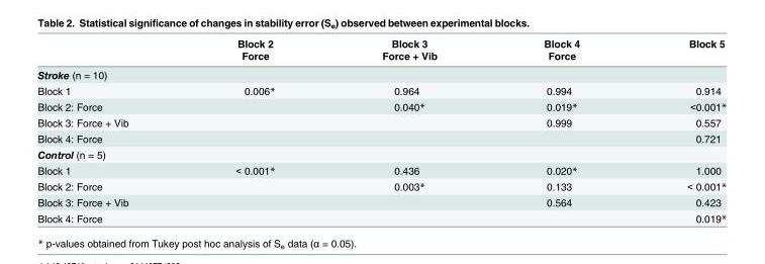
<table><thead><tr><td rowspan="2"></td><td rowspan="2">Block 2 Force</td><td rowspan="2">Block 3 Force + Vib</td><td rowspan="2">Block 4 Force</td><td rowspan="2">Block 5</td></tr><tr></tr></thead><tbody><tr><td colspan="5">Stroke (n = 10)</td></tr><tr><td>Block 1</td><td>0.006*</td><td>0.964</td><td>0.994</td><td>0.914</td></tr><tr><td>Block 2: Force</td><td></td><td>0.040*</td><td>0.019*</td><td>&lt;0.001*</td></tr><tr><td>Block 3: Force + Vib</td><td></td><td></td><td>0.999</td><td>0.557</td></tr><tr><td>Block 4: Force</td><td></td><td></td><td></td><td>0.721</td></tr><tr><td colspan="5">Control (n = 5)</td></tr><tr><td>Block 1</td><td>&lt; 0.001*</td><td>0.436</td><td>0.020*</td><td>1.000</td></tr><tr><td>Block 2: Force</td><td></td><td>0.003*</td><td>0.133</td><td>&lt; 0.001*</td></tr><tr><td>Block 3: Force + Vib</td><td></td><td></td><td>0.564</td><td>0.423</td></tr><tr><td>Block 4: Force</td><td></td><td></td><td></td><td>0.019*</td></tr></tbody></table>